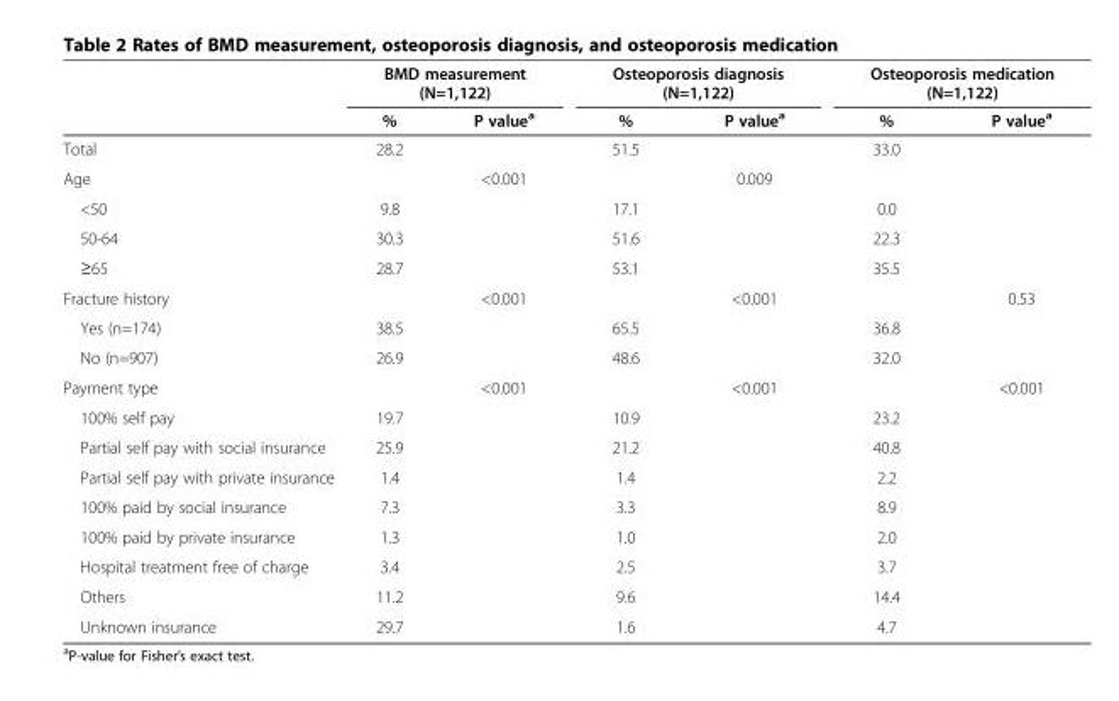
<table><thead><tr><td rowspan="2"></td><td colspan="2">BMD measurement (N=1,122)</td><td colspan="2">Osteoporosis diagnosis (N=1,122)</td><td colspan="2">Osteoporosis medication (N=1,122)</td></tr><tr><td>%</td><td>P value<sup>a</sup></td><td>%</td><td>P value<sup>a</sup></td><td>%</td><td>P value<sup>a</sup></td></tr></thead><tbody><tr><td>Total</td><td>28.2</td><td></td><td>51.5</td><td></td><td>33.0</td><td></td></tr><tr><td>Age</td><td></td><td>&lt;0.001</td><td></td><td>0.009</td><td></td><td></td></tr><tr><td>&lt;50</td><td>9.8</td><td></td><td>17.1</td><td></td><td>0.0</td><td></td></tr><tr><td>50-64</td><td>30.3</td><td></td><td>51.6</td><td></td><td>22.3</td><td></td></tr><tr><td>≥65</td><td>28.7</td><td></td><td>53.1</td><td></td><td>35.5</td><td></td></tr><tr><td>Fracture history</td><td></td><td>&lt;0.001</td><td></td><td>&lt;0.001</td><td></td><td>0.53</td></tr><tr><td>Yes (n=174)</td><td>38.5</td><td></td><td>65.5</td><td></td><td>36.8</td><td></td></tr><tr><td>No (n=907)</td><td>26.9</td><td></td><td>48.6</td><td></td><td>32.0</td><td></td></tr><tr><td>Payment type</td><td></td><td>&lt;0.001</td><td></td><td>&lt;0.001</td><td></td><td>&lt;0.001</td></tr><tr><td>100% self pay</td><td>19.7</td><td></td><td>10.9</td><td></td><td>23.2</td><td></td></tr><tr><td>Partial self pay with social insurance</td><td>25.9</td><td></td><td>21.2</td><td></td><td>40.8</td><td></td></tr><tr><td>Partial self pay with private insurance</td><td>1.4</td><td></td><td>1.4</td><td></td><td>2.2</td><td></td></tr><tr><td>100% paid by social insurance</td><td>7.3</td><td></td><td>3.3</td><td></td><td>8.9</td><td></td></tr><tr><td>100% paid by private insurance</td><td>1.3</td><td></td><td>1.0</td><td></td><td>2.0</td><td></td></tr><tr><td>Hospital treatment free of charge</td><td>3.4</td><td></td><td>2.5</td><td></td><td>3.7</td><td></td></tr><tr><td>Others</td><td>11.2</td><td></td><td>9.6</td><td></td><td>14.4</td><td></td></tr><tr><td>Unknown insurance</td><td>29.7</td><td></td><td>1.6</td><td></td><td>4.7</td><td></td></tr></tbody></table>